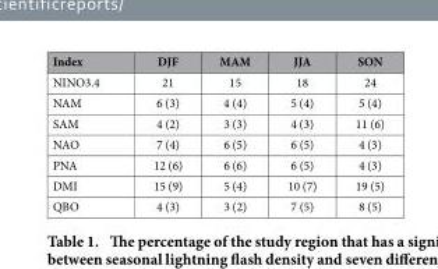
<table><thead><tr><td>Index</td><td>DJF</td><td>MAM</td><td>JJA</td><td>SON</td></tr></thead><tbody><tr><td>NINO3.4</td><td>21</td><td>15</td><td>18</td><td>24</td></tr><tr><td>NAM</td><td>6 (3)</td><td>4 (4)</td><td>5 (4)</td><td>5 (4)</td></tr><tr><td>SAM</td><td>4 (2)</td><td>3 (3)</td><td>4 (3)</td><td>11 (6)</td></tr><tr><td>NAO</td><td>7 (4)</td><td>6 (5)</td><td>6 (5)</td><td>4 (3)</td></tr><tr><td>PNA</td><td>12 (6)</td><td>6 (6)</td><td>6 (5)</td><td>4 (3)</td></tr><tr><td>DMI</td><td>15 (9)</td><td>5 (4)</td><td>10 (7)</td><td>19 (5)</td></tr><tr><td>QBO</td><td>4 (3)</td><td>3 (2)</td><td>7 (5)</td><td>8 (5)</td></tr></tbody></table>